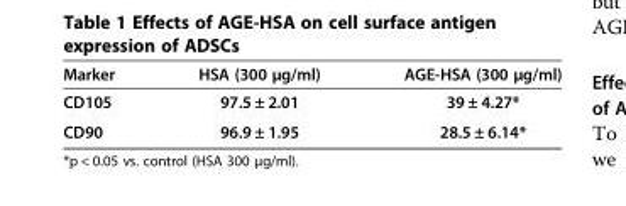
<table><thead><tr><td>Marker</td><td>HSA (300 μg/ml)</td><td>AGE-HSA (300 μg/ml)</td></tr></thead><tbody><tr><td>CD105</td><td>97.5 ± 2.01</td><td>39 ± 4.27*</td></tr><tr><td>CD90</td><td>96.9 ± 1.95</td><td>28.5 ± 6.14*</td></tr></tbody></table>